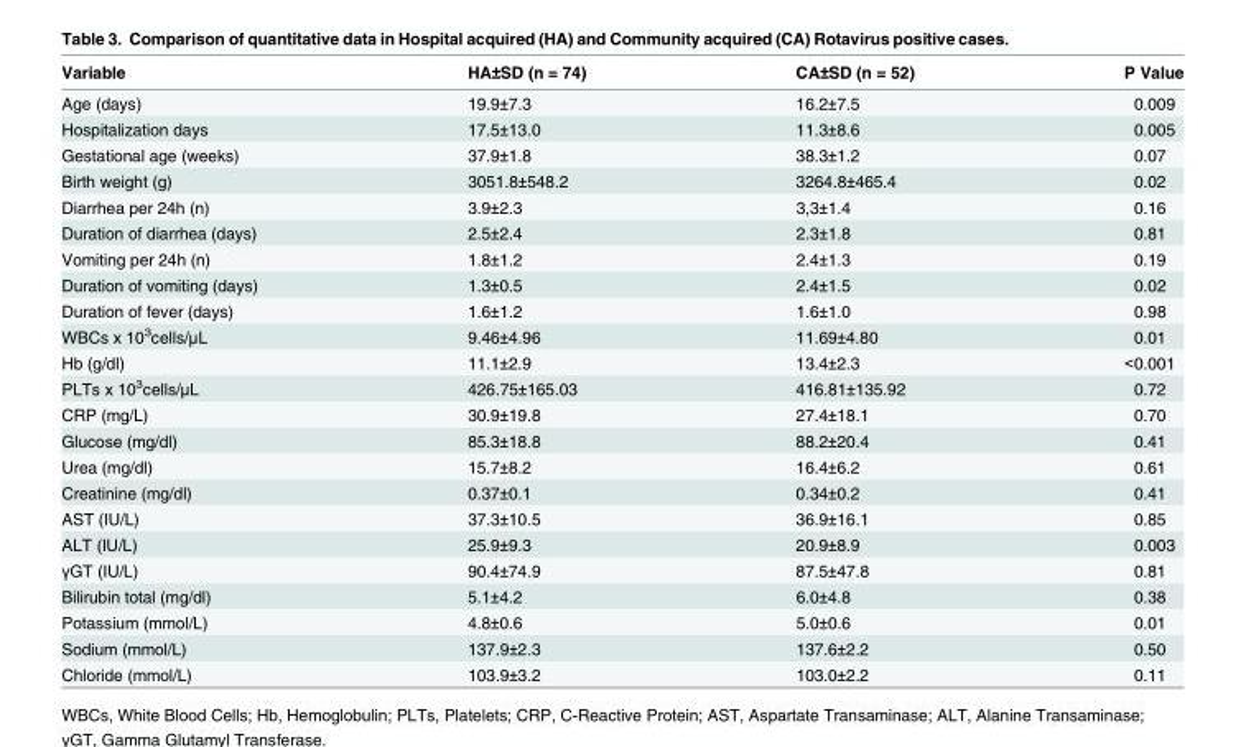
<table><thead><tr><td>Variable</td><td>HA±SD (n = 74)</td><td>CA±SD (n = 52)</td><td>P Value</td></tr></thead><tbody><tr><td>Age (days)</td><td>19.9±7.3</td><td>16.2±7.5</td><td>0.009</td></tr><tr><td>Hospitalization days</td><td>17.5±13.0</td><td>11.3±8.6</td><td>0.005</td></tr><tr><td>Gestational age (weeks)</td><td>37.9±1.8</td><td>38.3±1.2</td><td>0.07</td></tr><tr><td>Birth weight (g)</td><td>3051.8±548.2</td><td>3264.8±465.4</td><td>0.02</td></tr><tr><td>Diarrhea per 24h (n)</td><td>3.9±2.3</td><td>3,3±1.4</td><td>0.16</td></tr><tr><td>Duration of diarrhea (days)</td><td>2.5±2.4</td><td>2.3±1.8</td><td>0.81</td></tr><tr><td>Vomiting per 24h (n)</td><td>1.8±1.2</td><td>2.4±1.3</td><td>0.19</td></tr><tr><td>Duration of vomiting (days)</td><td>1.3±0.5</td><td>2.4±1.5</td><td>0.02</td></tr><tr><td>Duration of fever (days)</td><td>1.6±1.2</td><td>1.6±1.0</td><td>0.98</td></tr><tr><td>WBCs x 10<sup>3</sup>cells/μL</td><td>9.46±4.96</td><td>11.69±4.80</td><td>0.01</td></tr><tr><td>Hb (g/dl)</td><td>11.1±2.9</td><td>13.4±2.3</td><td>&lt;0.001</td></tr><tr><td>PLTs x 10<sup>3</sup>cells/μL</td><td>426.75±165.03</td><td>416.81±135.92</td><td>0.72</td></tr><tr><td>CRP (mg/L)</td><td>30.9±19.8</td><td>27.4±18.1</td><td>0.70</td></tr><tr><td>Glucose (mg/dl)</td><td>85.3±18.8</td><td>88.2±20.4</td><td>0.41</td></tr><tr><td>Urea (mg/dl)</td><td>15.7±8.2</td><td>16.4±6.2</td><td>0.61</td></tr><tr><td>Creatinine (mg/dl)</td><td>0.37±0.1</td><td>0.34±0.2</td><td>0.41</td></tr><tr><td>AST (IU/L)</td><td>37.3±10.5</td><td>36.9±16.1</td><td>0.85</td></tr><tr><td>ALT (IU/L)</td><td>25.9±9.3</td><td>20.9±8.9</td><td>0.003</td></tr><tr><td>γGT (IU/L)</td><td>90.4±74.9</td><td>87.5±47.8</td><td>0.81</td></tr><tr><td>Bilirubin total (mg/dl)</td><td>5.1±4.2</td><td>6.0±4.8</td><td>0.38</td></tr><tr><td>Potassium (mmol/L)</td><td>4.8±0.6</td><td>5.0±0.6</td><td>0.01</td></tr><tr><td>Sodium (mmol/L)</td><td>137.9±2.3</td><td>137.6±2.2</td><td>0.50</td></tr><tr><td>Chloride (mmol/L)</td><td>103.9±3.2</td><td>103.0±2.2</td><td>0.11</td></tr></tbody></table>